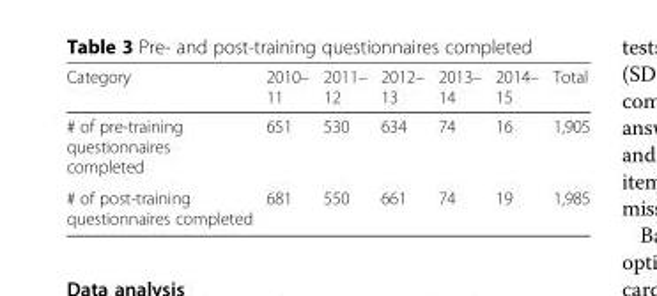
<table><thead><tr><td>Category</td><td>2010– 11</td><td>2011– 12</td><td>2012– 13</td><td>2013– 14</td><td>2014– 15</td><td>Total</td></tr></thead><tbody><tr><td># of pre-training questionnaires completed</td><td>651</td><td>530</td><td>634</td><td>74</td><td>16</td><td>1,905</td></tr><tr><td># of post-training questionnaires completed</td><td>681</td><td>550</td><td>661</td><td>74</td><td>19</td><td>1,985</td></tr></tbody></table>